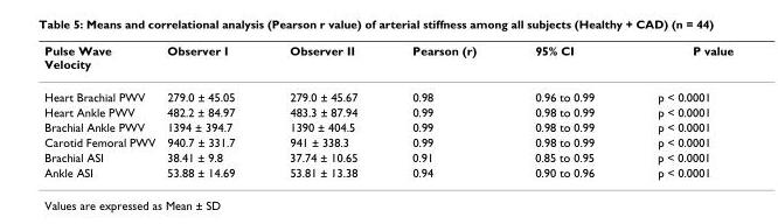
<table><thead><tr><td>Pulse Wave Velocity</td><td>Observer I</td><td>Observer II</td><td>Pearson (r)</td><td>95% CI</td><td>P value</td></tr></thead><tbody><tr><td>Heart Brachial PWV</td><td>279.0 ± 45.05</td><td>279.0 ± 45.67</td><td>0.98</td><td>0.96 to 0.99</td><td>p &lt; 0.0001</td></tr><tr><td>Heart Ankle PWV</td><td>482.2 ± 84.97</td><td>483.3 ± 87.94</td><td>0.99</td><td>0.98 to 0.99</td><td>p &lt; 0.0001</td></tr><tr><td>Brachial Ankle PWV</td><td>1394 ± 394.7</td><td>1390 ± 404.5</td><td>0.99</td><td>0.98 to 0.99</td><td>p &lt; 0.0001</td></tr><tr><td>Carotid Femoral PWV</td><td>940.7 ± 331.7</td><td>941 ± 338.3</td><td>0.99</td><td>0.98 to 0.99</td><td>p &lt; 0.0001</td></tr><tr><td>Brachial ASI</td><td>38.41 ± 9.8</td><td>37.74 ± 10.65</td><td>0.91</td><td>0.85 to 0.95</td><td>p &lt; 0.0001</td></tr><tr><td>Ankle ASI</td><td>53.88 ± 14.69</td><td>53.81 ± 13.38</td><td>0.94</td><td>0.90 to 0.96</td><td>p &lt; 0.0001</td></tr></tbody></table>